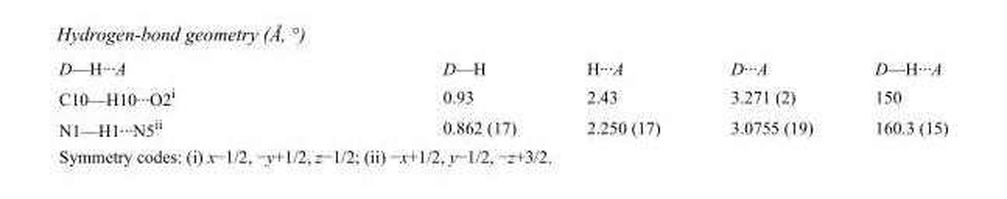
<table><tbody><tr><td>D—H···A</td><td>D—H</td><td>H···A</td><td>D···A</td><td>D—H···A</td></tr><tr><td>C10—H10···O2<sup>i</sup></td><td>0.93</td><td>2.43</td><td>3.271 (2)</td><td>150</td></tr><tr><td>N1—H1···N5<sup>ii</sup></td><td>0.862 (17)</td><td>2.250 (17)</td><td>3.0755 (19)</td><td>160.3 (15)</td></tr></tbody></table>